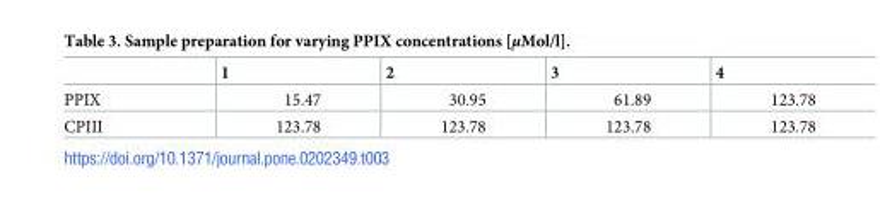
<table><thead><tr><td></td><td>1</td><td>2</td><td>3</td><td>4</td></tr></thead><tbody><tr><td>PPIX</td><td>15.47</td><td>30.95</td><td>61.89</td><td>123.78</td></tr><tr><td>CPIII</td><td>123.78</td><td>123.78</td><td>123.78</td><td>123.78</td></tr></tbody></table>